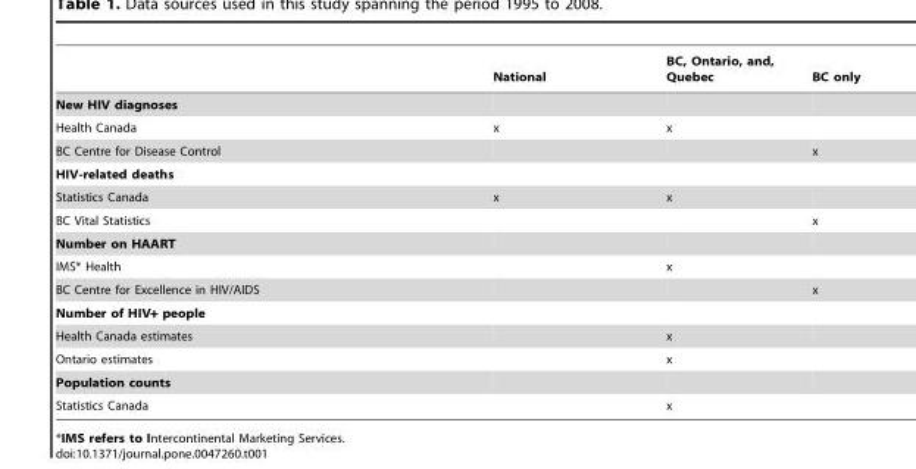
<table><thead><tr><td></td><td>National</td><td>BC, Ontario, and, Quebec</td><td>BC only</td></tr></thead><tbody><tr><td colspan="4">New HIV diagnoses</td></tr><tr><td>Health Canada</td><td>x</td><td>x</td><td></td></tr><tr><td>BC Centre for Disease Control</td><td></td><td></td><td>x</td></tr><tr><td colspan="4">HIV-related deaths</td></tr><tr><td>Statistics Canada</td><td>x</td><td>x</td><td></td></tr><tr><td>BC Vital Statistics</td><td></td><td></td><td>x</td></tr><tr><td colspan="4">Number on HAART</td></tr><tr><td>IMS* Health</td><td></td><td>x</td><td></td></tr><tr><td>BC Centre for Excellence in HIV/AIDS</td><td></td><td></td><td>x</td></tr><tr><td colspan="4">Number of HIV+ people</td></tr><tr><td>Health Canada estimates</td><td></td><td>x</td><td></td></tr><tr><td>Ontario estimates</td><td></td><td>x</td><td></td></tr><tr><td colspan="4">Population counts</td></tr><tr><td>Statistics Canada</td><td></td><td>x</td><td></td></tr></tbody></table>